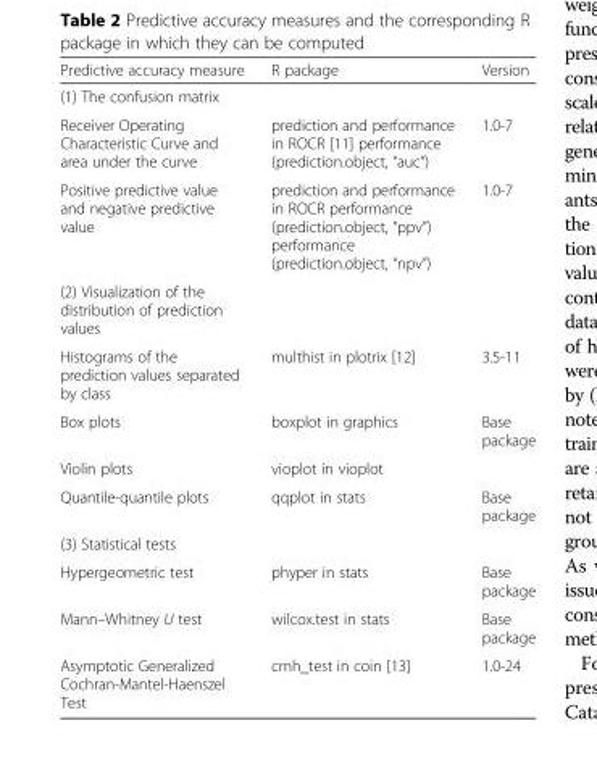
<table><thead><tr><td>Predictive accuracy measure</td><td>R package</td><td>Version</td></tr></thead><tbody><tr><td colspan="3">(1) The confusion matrix</td></tr><tr><td>Receiver Operating Characteristic Curve and area under the curve</td><td>prediction and performance in ROCR [11] performance (prediction.object, “auc”)</td><td>1.0-7</td></tr><tr><td>Positive predictive value and negative predictive value</td><td>prediction and performance in ROCR performance (prediction.object, “ppv”) performance (prediction.object, “npv”)</td><td>1.0-7</td></tr><tr><td colspan="3">(2) Visualization of the distribution of prediction values</td></tr><tr><td>Histograms of the prediction values separated by class</td><td>multhist in plotrix [12]</td><td>3.5-11</td></tr><tr><td>Box plots</td><td>boxplot in graphics</td><td>Base package</td></tr><tr><td>Violin plots</td><td>vioplot in vioplot</td><td></td></tr><tr><td>Quantile-quantile plots</td><td>qqplot in stats</td><td>Base package</td></tr><tr><td colspan="3">(3) Statistical tests</td></tr><tr><td>Hypergeometric test</td><td>phyper in stats</td><td>Base package</td></tr><tr><td>Mann–Whitney U test</td><td>wilcox.test in stats</td><td>Base package</td></tr><tr><td>Asymptotic Generalized Cochran-Mantel-Haenszel Test</td><td>cmh_test in coin [13]</td><td>1.0-24</td></tr></tbody></table>